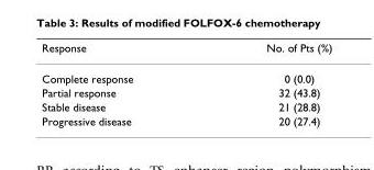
<table><thead><tr><td>Response</td><td>No. of Pts (%)</td></tr></thead><tbody><tr><td>Complete response</td><td>0 (0.0)</td></tr><tr><td>Partial response</td><td>32 (43.8)</td></tr><tr><td>Stable disease</td><td>21 (28.8)</td></tr><tr><td>Progressive disease</td><td>20 (27.4)</td></tr></tbody></table>